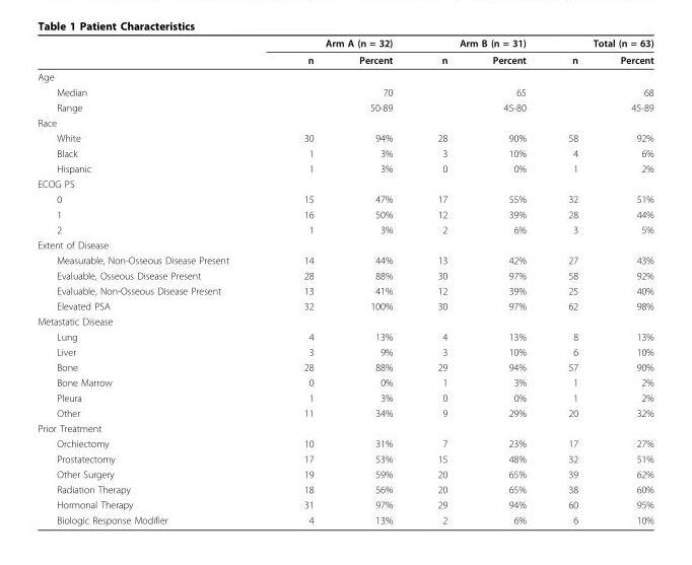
<table><thead><tr><td rowspan="2"></td><td colspan="2">Arm A (n = 32)</td><td colspan="2">Arm B (n = 31)</td><td colspan="2">Total (n = 63)</td></tr><tr><td>n</td><td>Percent</td><td>n</td><td>Percent</td><td>n</td><td>Percent</td></tr></thead><tbody><tr><td colspan="7">Age</td></tr><tr><td>Median</td><td></td><td>70</td><td></td><td>65</td><td></td><td>68</td></tr><tr><td>Range</td><td></td><td>50-89</td><td></td><td>45-80</td><td></td><td>45-89</td></tr><tr><td colspan="7">Race</td></tr><tr><td>White</td><td>30</td><td>94%</td><td>28</td><td>90%</td><td>58</td><td>92%</td></tr><tr><td>Black</td><td>1</td><td>3%</td><td>3</td><td>10%</td><td>4</td><td>6%</td></tr><tr><td>Hispanic</td><td>1</td><td>3%</td><td>0</td><td>0%</td><td>1</td><td>2%</td></tr><tr><td colspan="7">ECOG PS</td></tr><tr><td>0</td><td>15</td><td>47%</td><td>17</td><td>55%</td><td>32</td><td>51%</td></tr><tr><td>1</td><td>16</td><td>50%</td><td>12</td><td>39%</td><td>28</td><td>44%</td></tr><tr><td>2</td><td>1</td><td>3%</td><td>2</td><td>6%</td><td>3</td><td>5%</td></tr><tr><td colspan="7">Extent of Disease</td></tr><tr><td>Measurable, Non-Osseous Disease Present</td><td>14</td><td>44%</td><td>13</td><td>42%</td><td>27</td><td>43%</td></tr><tr><td>Evaluable, Osseous Disease Present</td><td>28</td><td>88%</td><td>30</td><td>97%</td><td>58</td><td>92%</td></tr><tr><td>Evaluable, Non-Osseous Disease Present</td><td>13</td><td>41%</td><td>12</td><td>39%</td><td>25</td><td>40%</td></tr><tr><td>Elevated PSA</td><td>32</td><td>100%</td><td>30</td><td>97%</td><td>62</td><td>98%</td></tr><tr><td colspan="7">Metastatic Disease</td></tr><tr><td>Lung</td><td>4</td><td>13%</td><td>4</td><td>13%</td><td>8</td><td>13%</td></tr><tr><td>Liver</td><td>3</td><td>9%</td><td>3</td><td>10%</td><td>6</td><td>10%</td></tr><tr><td>Bone</td><td>28</td><td>88%</td><td>29</td><td>94%</td><td>57</td><td>90%</td></tr><tr><td>Bone Marrow</td><td>0</td><td>0%</td><td>1</td><td>3%</td><td>1</td><td>2%</td></tr><tr><td>Pleura</td><td>1</td><td>3%</td><td>0</td><td>0%</td><td>1</td><td>2%</td></tr><tr><td>Other</td><td>11</td><td>34%</td><td>9</td><td>29%</td><td>20</td><td>32%</td></tr><tr><td colspan="7">Prior Treatment</td></tr><tr><td>Orchiectomy</td><td>10</td><td>31%</td><td>7</td><td>23%</td><td>17</td><td>27%</td></tr><tr><td>Prostatectomy</td><td>17</td><td>53%</td><td>15</td><td>48%</td><td>32</td><td>51%</td></tr><tr><td>Other Surgery</td><td>19</td><td>59%</td><td>20</td><td>65%</td><td>39</td><td>62%</td></tr><tr><td>Radiation Therapy</td><td>18</td><td>56%</td><td>20</td><td>65%</td><td>38</td><td>60%</td></tr><tr><td>Hormonal Therapy</td><td>31</td><td>97%</td><td>29</td><td>94%</td><td>60</td><td>95%</td></tr><tr><td>Biologic Response Modifier</td><td>4</td><td>13%</td><td>2</td><td>6%</td><td>6</td><td>10%</td></tr></tbody></table>